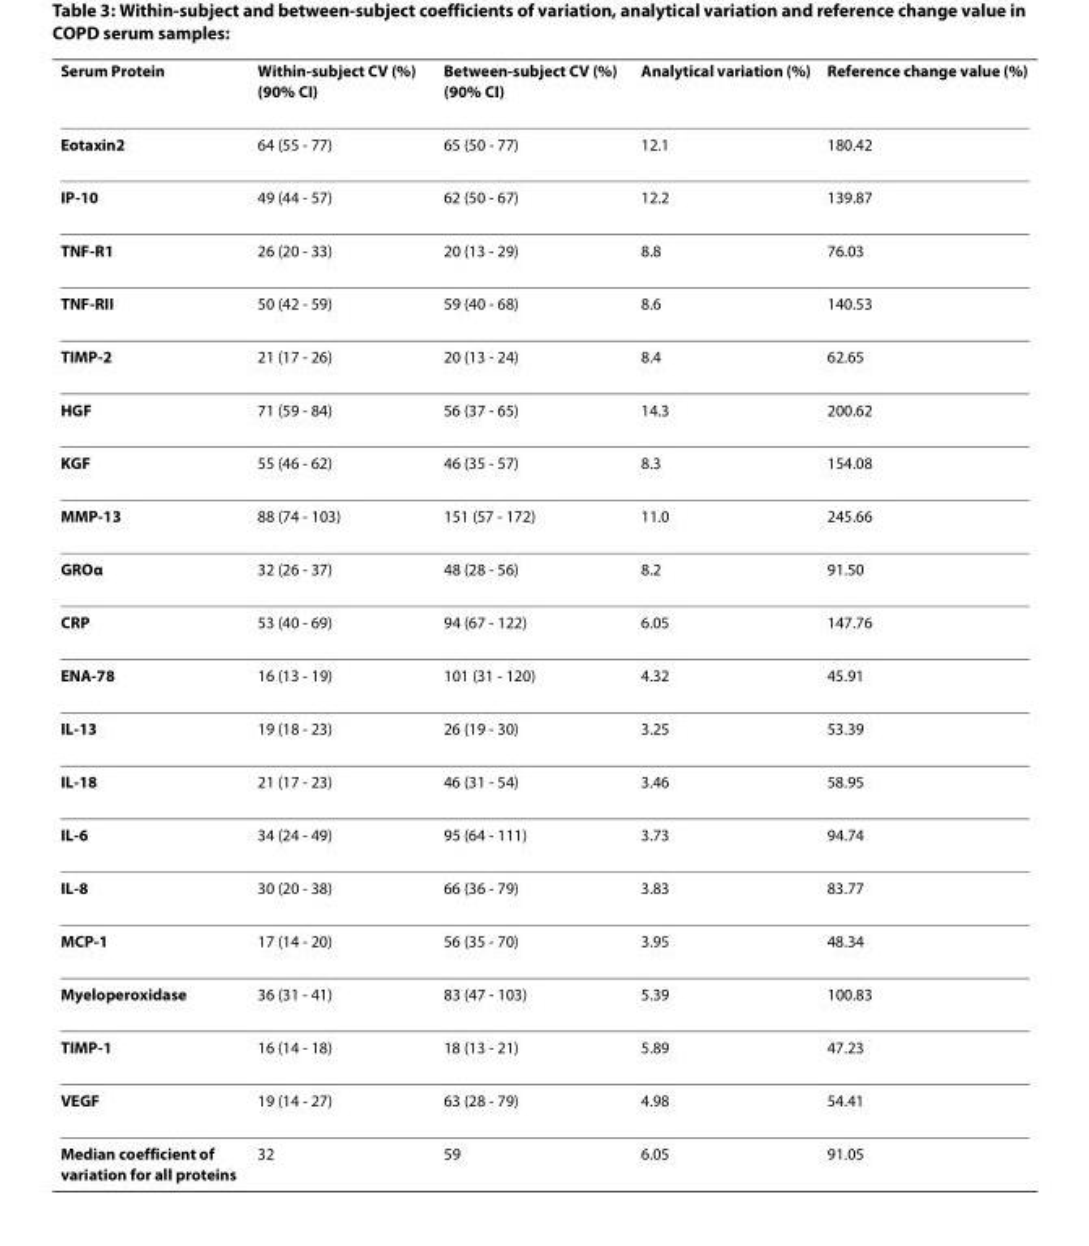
<table><thead><tr><td>Serum Protein</td><td>Within-subject CV (%) (90% CI)</td><td>Between-subject CV (%) (90% CI)</td><td>Analytical variation (%)</td><td>Reference change value (%)</td></tr></thead><tbody><tr><td>Eotaxin2</td><td>64 (55 - 77)</td><td>65 (50 - 77)</td><td>12.1</td><td>180.42</td></tr><tr><td>IP-10</td><td>49 (44 - 57)</td><td>62 (50 - 67)</td><td>12.2</td><td>139.87</td></tr><tr><td>TNF-R1</td><td>26 (20 - 33)</td><td>20 (13 - 29)</td><td>8.8</td><td>76.03</td></tr><tr><td>TNF-RII</td><td>50 (42 - 59)</td><td>59 (40 - 68)</td><td>8.6</td><td>140.53</td></tr><tr><td>TIMP-2</td><td>21 (17 - 26)</td><td>20 (13 - 24)</td><td>8.4</td><td>62.65</td></tr><tr><td>HGF</td><td>71 (59 - 84)</td><td>56 (37 - 65)</td><td>14.3</td><td>200.62</td></tr><tr><td>KGF</td><td>55 (46 - 62)</td><td>46 (35 - 57)</td><td>8.3</td><td>154.08</td></tr><tr><td>MMP-13</td><td>88 (74 - 103)</td><td>151 (57 - 172)</td><td>11.0</td><td>245.66</td></tr><tr><td>GROα</td><td>32 (26 - 37)</td><td>48 (28 - 56)</td><td>8.2</td><td>91.50</td></tr><tr><td>CRP</td><td>53 (40 - 69)</td><td>94 (67 - 122)</td><td>6.05</td><td>147.76</td></tr><tr><td>ENA-78</td><td>16 (13 - 19)</td><td>101 (31 - 120)</td><td>4.32</td><td>45.91</td></tr><tr><td>IL-13</td><td>19 (18 - 23)</td><td>26 (19 - 30)</td><td>3.25</td><td>53.39</td></tr><tr><td>IL-18</td><td>21 (17 - 23)</td><td>46 (31 - 54)</td><td>3.46</td><td>58.95</td></tr><tr><td>IL-6</td><td>34 (24 - 49)</td><td>95 (64 - 111)</td><td>3.73</td><td>94.74</td></tr><tr><td>IL-8</td><td>30 (20 - 38)</td><td>66 (36 - 79)</td><td>3.83</td><td>83.77</td></tr><tr><td>MCP-1</td><td>17 (14 - 20)</td><td>56 (35 - 70)</td><td>3.95</td><td>48.34</td></tr><tr><td>Myeloperoxidase</td><td>36 (31 - 41)</td><td>83 (47 - 103)</td><td>5.39</td><td>100.83</td></tr><tr><td>TIMP-1</td><td>16 (14 - 18)</td><td>18 (13 - 21)</td><td>5.89</td><td>47.23</td></tr><tr><td>VEGF</td><td>19 (14 - 27)</td><td>63 (28 - 79)</td><td>4.98</td><td>54.41</td></tr><tr><td>Median coefficient of variation for all proteins</td><td>32</td><td>59</td><td>6.05</td><td>91.05</td></tr></tbody></table>